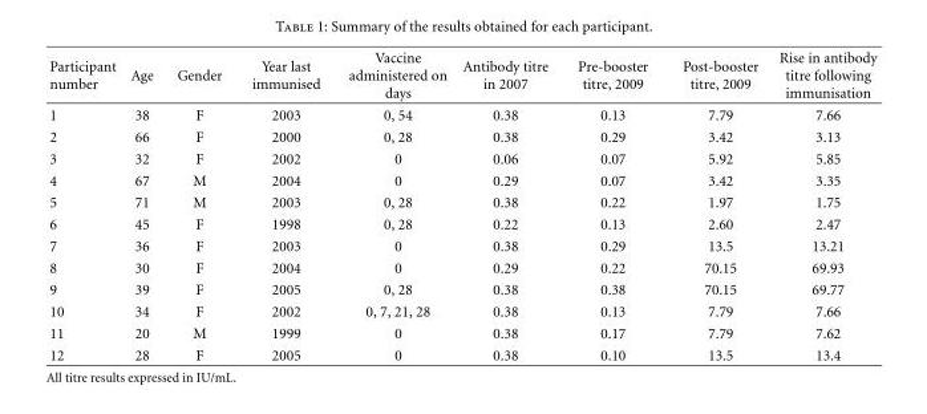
<table><thead><tr><td>Participant number</td><td>Age</td><td>Gender</td><td>Year last immunised</td><td>Vaccine administered on days</td><td>Antibody titre in 2007</td><td>Pre-booster titre, 2009</td><td>Post-booster titre, 2009</td><td>Rise in antibody titre following immunisation</td></tr></thead><tbody><tr><td>1</td><td>38</td><td>F</td><td>2003</td><td>0, 54</td><td>0.38</td><td>0.13</td><td>7.79</td><td>7.66</td></tr><tr><td>2</td><td>66</td><td>F</td><td>2000</td><td>0, 28</td><td>0.38</td><td>0.29</td><td>3.42</td><td>3.13</td></tr><tr><td>3</td><td>32</td><td>F</td><td>2002</td><td>0</td><td>0.06</td><td>0.07</td><td>5.92</td><td>5.85</td></tr><tr><td>4</td><td>67</td><td>M</td><td>2004</td><td>0</td><td>0.29</td><td>0.07</td><td>3.42</td><td>3.35</td></tr><tr><td>5</td><td>71</td><td>M</td><td>2003</td><td>0, 28</td><td>0.38</td><td>0.22</td><td>1.97</td><td>1.75</td></tr><tr><td>6</td><td>45</td><td>F</td><td>1998</td><td>0, 28</td><td>0.22</td><td>0.13</td><td>2.60</td><td>2.47</td></tr><tr><td>7</td><td>36</td><td>F</td><td>2003</td><td>0</td><td>0.38</td><td>0.29</td><td>13.5</td><td>13.21</td></tr><tr><td>8</td><td>30</td><td>F</td><td>2004</td><td>0</td><td>0.29</td><td>0.22</td><td>70.15</td><td>69.93</td></tr><tr><td>9</td><td>39</td><td>F</td><td>2005</td><td>0, 28</td><td>0.38</td><td>0.38</td><td>70.15</td><td>69.77</td></tr><tr><td>10</td><td>34</td><td>F</td><td>2002</td><td>0, 7, 21, 28</td><td>0.38</td><td>0.13</td><td>7.79</td><td>7.66</td></tr><tr><td>11</td><td>20</td><td>M</td><td>1999</td><td>0</td><td>0.38</td><td>0.17</td><td>7.79</td><td>7.62</td></tr><tr><td>12</td><td>28</td><td>F</td><td>2005</td><td>0</td><td>0.38</td><td>0.10</td><td>13.5</td><td>13.4</td></tr></tbody></table>